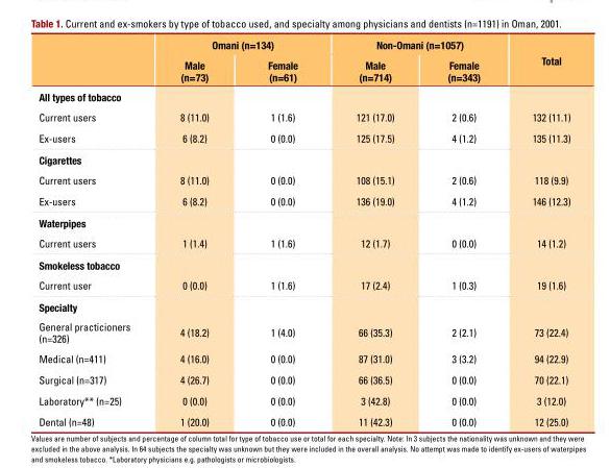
<table><thead><tr><td rowspan="2"></td><td colspan="2">Omani (n=134)</td><td colspan="2">Non-Omani (n=1057)</td><td rowspan="2">Total</td></tr><tr><td>Male (n=73)</td><td>Female (n=61)</td><td>Male (n=714)</td><td>Female (n=343)</td></tr></thead><tbody><tr><td colspan="6">All types of tobacco</td></tr><tr><td>current users</td><td>8 (11.0)</td><td>1 (1.6)</td><td>121 (17.0)</td><td>2 (0.6)</td><td>132 (11.1)</td></tr><tr><td>ex-users</td><td>6 (8.2)</td><td>0 (0.0)</td><td>125 (17.5)</td><td>4 (1.2)</td><td>135 (11.3)</td></tr><tr><td colspan="6">Cigarettes</td></tr><tr><td>current users</td><td>8 (11.0)</td><td>0 (0.0)</td><td>108 (15.1)</td><td>2 (0.6)</td><td>118 (9.9)</td></tr><tr><td>ex-users</td><td>6 (8.2)</td><td>0 (0.0)</td><td>136 (19.0)</td><td>4 (1.2)</td><td>146 (12.3)</td></tr><tr><td colspan="6">Waterpipes</td></tr><tr><td>current users</td><td>1 (1.4)</td><td>1 (1.6)</td><td>12 (1.7)</td><td>0 (0.0)</td><td>14 (1.2)</td></tr><tr><td colspan="6">Smokeless tobacco</td></tr><tr><td>current user</td><td>0 (0.0)</td><td>1 (1.6)</td><td>17 (2.4)</td><td>1 (0.3)</td><td>19 (1.6)</td></tr><tr><td colspan="6">Specialty</td></tr><tr><td>General practicioners (n=326)</td><td>4 (18.2)</td><td>1 (4.0)</td><td>66 (35.3)</td><td>2 (2.1)</td><td>73 (22.4)</td></tr><tr><td>Medical (n=411)</td><td>4 (16.0)</td><td>0 (0.0)</td><td>87 (31.0)</td><td>3 (3.2)</td><td>94 (22.9)</td></tr><tr><td>Surgical (n=317)</td><td>4 (26.7)</td><td>0 (0.0)</td><td>66 (36.5)</td><td>0 (0.0)</td><td>70 (22.1)</td></tr><tr><td>Laboratory** (n=25)</td><td>0 (0.0)</td><td>0 (0.0)</td><td>3 (42.8)</td><td>0 (0.0)</td><td>3 (12.0)</td></tr><tr><td>Dental (n=48)</td><td>1 (20.0)</td><td>0 (0.0)</td><td>11 (42.3)</td><td>0 (0.0)</td><td>12 (25.0)</td></tr></tbody></table>